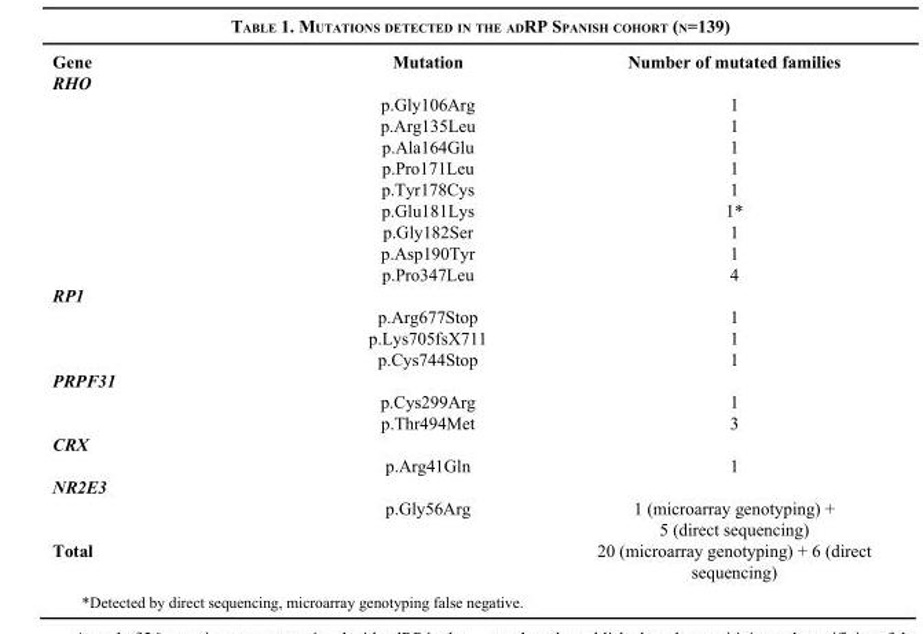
<table><thead><tr><td>Gene</td><td>Mutation</td><td>Number of mutated families</td></tr></thead><tbody><tr><td colspan="3">RHO</td></tr><tr><td></td><td>p.Gly106Arg</td><td>1</td></tr><tr><td></td><td>p.Arg135Leu</td><td>1</td></tr><tr><td></td><td>p.Ala164Glu</td><td>1</td></tr><tr><td></td><td>p.Pro171Leu</td><td>1</td></tr><tr><td></td><td>p.Tyr178Cys</td><td>1</td></tr><tr><td></td><td>p.Glu181Lys</td><td>1*</td></tr><tr><td></td><td>p.Gly182Ser</td><td>1</td></tr><tr><td></td><td>p.Asp190Tyr</td><td>1</td></tr><tr><td></td><td>p.Pro347Leu</td><td>4</td></tr><tr><td colspan="3">RP1</td></tr><tr><td></td><td>p.Arg677Stop</td><td>1</td></tr><tr><td></td><td>p.Lys705fsX711</td><td>1</td></tr><tr><td></td><td>p.Cys744Stop</td><td>1</td></tr><tr><td colspan="3">PRPF31</td></tr><tr><td></td><td>p.Cys299Arg</td><td>1</td></tr><tr><td></td><td>p.Thr494Met</td><td>3</td></tr><tr><td colspan="3">CRX</td></tr><tr><td></td><td>p.Arg41Gln</td><td>1</td></tr><tr><td colspan="3">NR2E3</td></tr><tr><td></td><td>p.Gly56Arg</td><td>1 (microarray genotyping) +</td></tr><tr><td></td><td></td><td>5 (direct sequencing)</td></tr><tr><td>Total</td><td></td><td>20 (microarray genotyping) + 6 (direct sequencing)</td></tr></tbody></table>